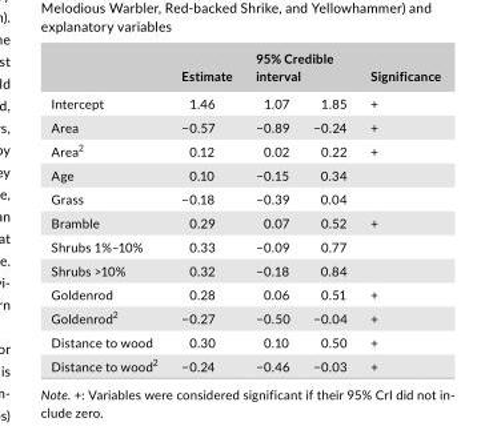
<table><thead><tr><td rowspan="2">Intercept</td><td rowspan="2">Estimate 1.46</td><td colspan="2">95% Credible interval</td><td rowspan="2">Significance +</td></tr><tr><td>1.07</td><td>1.85</td></tr></thead><tbody><tr><td>Area</td><td>−0.57</td><td>−0.89</td><td>−0.24</td><td>+</td></tr><tr><td>Area<sup>2</sup></td><td>0.12</td><td>0.02</td><td>0.22</td><td>+</td></tr><tr><td>Age</td><td>0.10</td><td>−0.15</td><td>0.34</td><td></td></tr><tr><td>Grass</td><td>−0.18</td><td>−0.39</td><td>0.04</td><td></td></tr><tr><td>Bramble</td><td>0.29</td><td>0.07</td><td>0.52</td><td>+</td></tr><tr><td>Shrubs 1%–10%</td><td>0.33</td><td>−0.09</td><td>0.77</td><td></td></tr><tr><td>Shrubs &gt;10%</td><td>0.32</td><td>−0.18</td><td>0.84</td><td></td></tr><tr><td>Goldenrod</td><td>0.28</td><td>0.06</td><td>0.51</td><td>+</td></tr><tr><td>Goldenrod<sup>2</sup></td><td>−0.27</td><td>−0.50</td><td>−0.04</td><td>+</td></tr><tr><td>Distance to wood</td><td>0.30</td><td>0.10</td><td>0.50</td><td>+</td></tr><tr><td>Distance to wood<sup>2</sup></td><td>−0.24</td><td>−0.46</td><td>−0.03</td><td>+</td></tr></tbody></table>